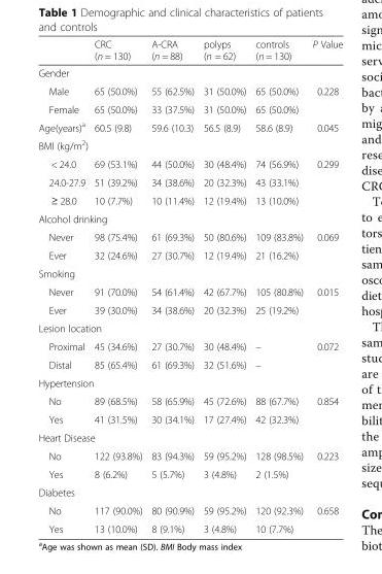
<table><thead><tr><td></td><td>CRC (n = 130)</td><td>A-CRA (n = 88)</td><td>polyps (n = 62)</td><td>controls (n = 130)</td><td>P Value</td></tr></thead><tbody><tr><td colspan="6">Gender</td></tr><tr><td>Male</td><td>65 (50.0%)</td><td>55 (62.5%)</td><td>31 (50.0%)</td><td>65 (50.0%)</td><td rowspan="2">0.228</td></tr><tr><td>Female</td><td>65 (50.0%)</td><td>33 (37.5%)</td><td>31 (50.0%)</td><td>65 (50.0%)</td></tr><tr><td>Age(years)<sup>a</sup></td><td>60.5 (9.8)</td><td>59.6 (10.3)</td><td>56.5 (8.9)</td><td>58.6 (8.9)</td><td>0.045</td></tr><tr><td colspan="6">BMI (kg/m<sup>2</sup>)</td></tr><tr><td>&lt; 24.0</td><td>69 (53.1%)</td><td>44 (50.0%)</td><td>30 (48.4%)</td><td>74 (56.9%)</td><td rowspan="3">0.299</td></tr><tr><td>24.0-27.9</td><td>51 (39.2%)</td><td>34 (38.6%)</td><td>20 (32.3%)</td><td>43 (33.1%)</td></tr><tr><td>≥ 28.0</td><td>10 (7.7%)</td><td>10 (11.4%)</td><td>12 (19.4%)</td><td>13 (10.0%)</td></tr><tr><td colspan="6">Alcohol drinking</td></tr><tr><td>Never</td><td>98 (75.4%)</td><td>61 (69.3%)</td><td>50 (80.6%)</td><td>109 (83.8%)</td><td rowspan="2">0.069</td></tr><tr><td>Ever</td><td>32 (24.6%)</td><td>27 (30.7%)</td><td>12 (19.4%)</td><td>21 (16.2%)</td></tr><tr><td colspan="6">Smoking</td></tr><tr><td>Never</td><td>91 (70.0%)</td><td>54 (61.4%)</td><td>42 (67.7%)</td><td>105 (80.8%)</td><td rowspan="2">0.015</td></tr><tr><td>Ever</td><td>39 (30.0%)</td><td>34 (38.6%)</td><td>20 (32.3%)</td><td>25 (19.2%)</td></tr><tr><td colspan="6">Lesion location</td></tr><tr><td>Proximal</td><td>45 (34.6%)</td><td>27 (30.7%)</td><td>30 (48.4%)</td><td>–</td><td rowspan="2">0.072</td></tr><tr><td>Distal</td><td>85 (65.4%)</td><td>61 (69.3%)</td><td>32 (51.6%)</td><td>–</td></tr><tr><td colspan="6">Hypertension</td></tr><tr><td>No</td><td>89 (68.5%)</td><td>58 (65.9%)</td><td>45 (72.6%)</td><td>88 (67.7%)</td><td rowspan="2">0.854</td></tr><tr><td>Yes</td><td>41 (31.5%)</td><td>30 (34.1%)</td><td>17 (27.4%)</td><td>42 (32.3%)</td></tr><tr><td colspan="6">Heart Disease</td></tr><tr><td>No</td><td>122 (93.8%)</td><td>83 (94.3%)</td><td>59 (95.2%)</td><td>128 (98.5%)</td><td rowspan="2">0.223</td></tr><tr><td>Yes</td><td>8 (6.2%)</td><td>5 (5.7%)</td><td>3 (4.8%)</td><td>2 (1.5%)</td></tr><tr><td colspan="6">Diabetes</td></tr><tr><td>No</td><td>117 (90.0%)</td><td>80 (90.9%)</td><td>59 (95.2%)</td><td>120 (92.3%)</td><td rowspan="2">0.658</td></tr><tr><td>Yes</td><td>13 (10.0%)</td><td>8 (9.1%)</td><td>3 (4.8%)</td><td>10 (7.7%)</td></tr></tbody></table>